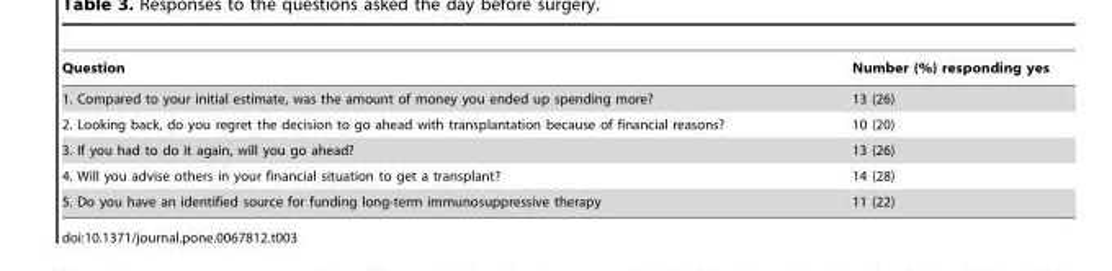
<table><thead><tr><td>Question</td><td>Number (%) responding yes</td></tr></thead><tbody><tr><td>1. Compared to your initial estimate, was the amount of money you ended up spending more?</td><td>13 (26)</td></tr><tr><td>2. Looking back, do you regret the decision to go ahead with transplantation because of financial reasons?</td><td>10 (20)</td></tr><tr><td>3. If you had to do it again, will you go ahead?</td><td>13 (26)</td></tr><tr><td>4. Will you advise others in your financial situation to get a transplant?</td><td>14 (28)</td></tr><tr><td>5. Do you have an identified source for funding long-term immunosuppressive therapy</td><td>11 (22)</td></tr></tbody></table>